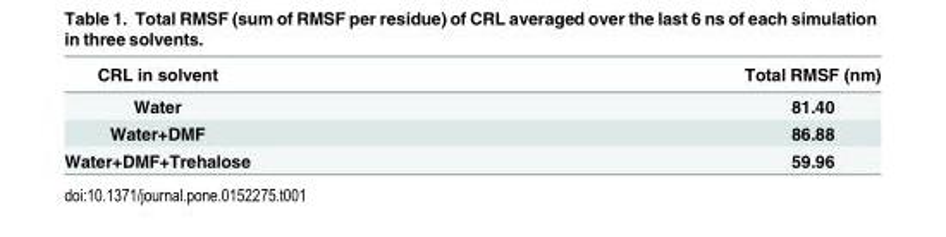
<table><thead><tr><td>CRL in solvent</td><td>Total RMSF (nm)</td></tr></thead><tbody><tr><td>Water</td><td>81.40</td></tr><tr><td>Water+DMF</td><td>86.88</td></tr><tr><td>Water+DMF+Trehalose</td><td>59.96</td></tr></tbody></table>